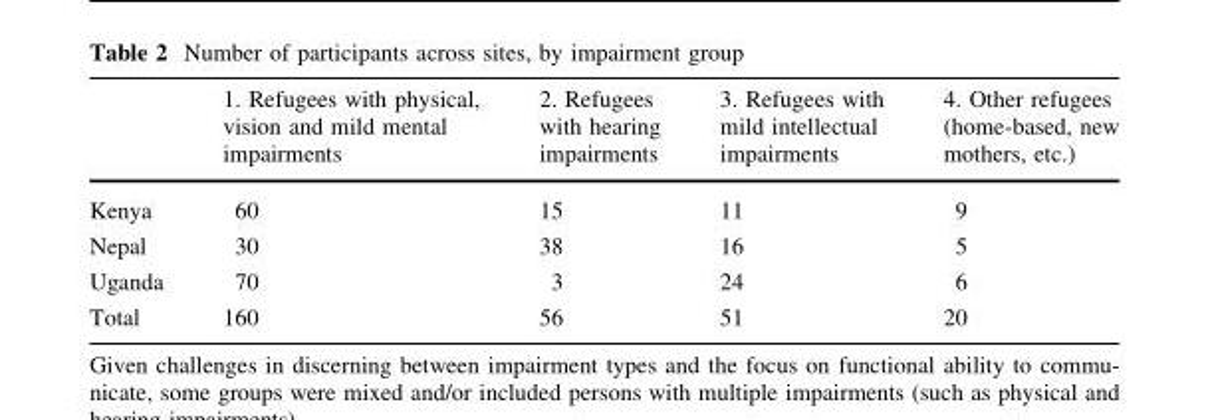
<table><thead><tr><td></td><td>1. Refugees with physical, vision and mild mental impairments</td><td>2. Refugees with hearing impairments</td><td>3. Refugees with mild intellectual impairments</td><td>4. Other refugees (home-based, new mothers, etc.)</td></tr></thead><tbody><tr><td>Kenya</td><td>60</td><td>15</td><td>11</td><td>9</td></tr><tr><td>Nepal</td><td>30</td><td>38</td><td>16</td><td>5</td></tr><tr><td>Uganda</td><td>70</td><td>3</td><td>24</td><td>6</td></tr><tr><td>Total</td><td>160</td><td>56</td><td>51</td><td>20</td></tr></tbody></table>